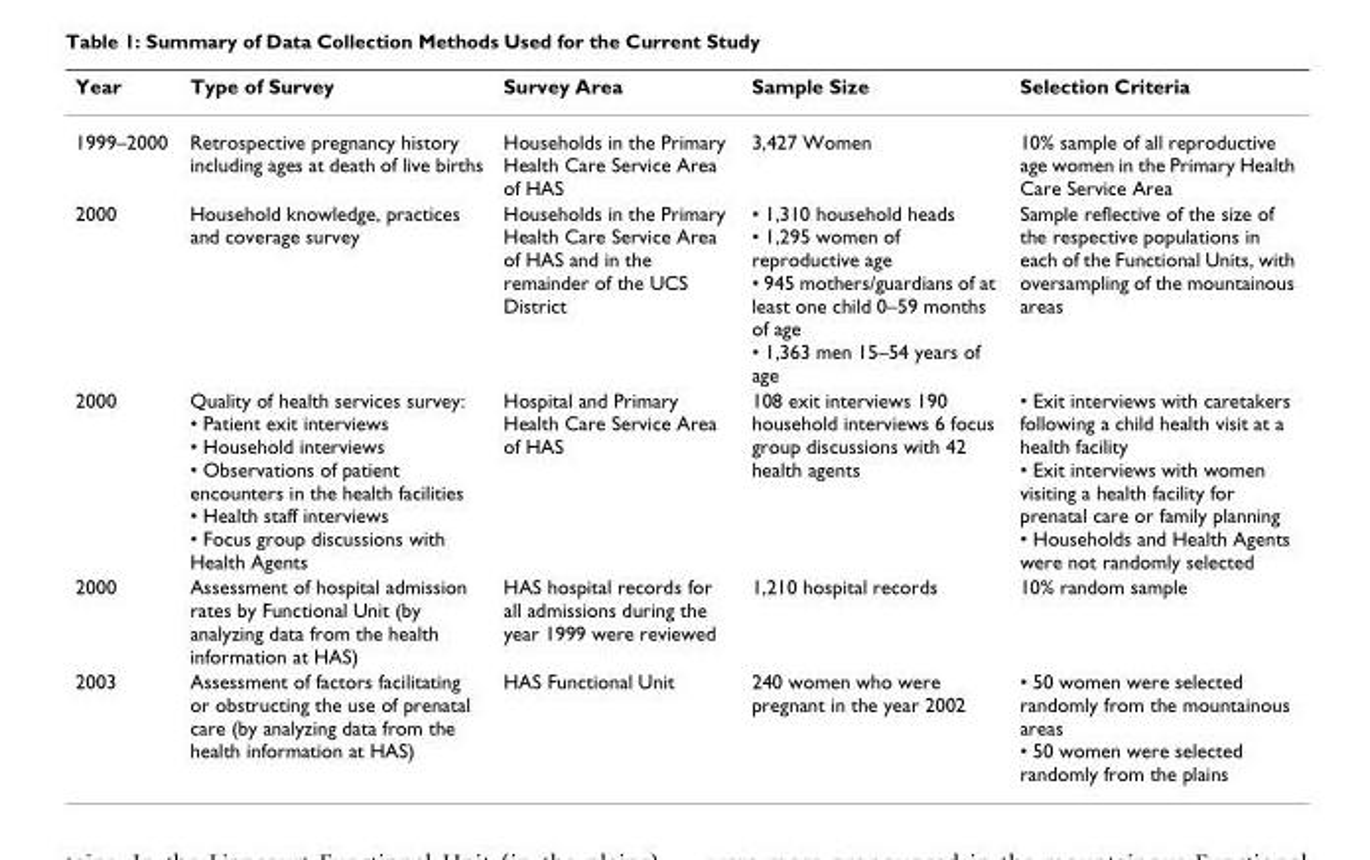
<table><thead><tr><td>Year</td><td>Type of Survey</td><td>Survey Area</td><td>Sample Size</td><td>Selection Criteria</td></tr></thead><tbody><tr><td>1999–2000</td><td>Retrospective pregnancy history including ages at death of live births</td><td>Households in the Primary Health Care Service Area of HAS</td><td>3,427 Women</td><td>10% sample of all reproductive age women in the Primary Health Care Service Area</td></tr><tr><td>2000</td><td>Household knowledge, practices and coverage survey</td><td>Households in the Primary Health Care Service Area of HAS and in the remainder of the UCS District</td><td>• 1,310 household heads • 1,295 women of reproductive age • 945 mothers/guardians of at least one child 0–59 months of age • 1,363 men 15–54 years of age</td><td>Sample reflective of the size of the respective populations in each of the Functional Units, with oversampling of the mountainous areas</td></tr><tr><td>2000</td><td>Quality of health services survey: • Patient exit interviews • Household interviews • Observations of patient encounters in the health facilities • Health staff interviews • Focus group discussions with Health Agents</td><td>Hospital and Primary Health Care Service Area of HAS</td><td>108 exit interviews 190 household interviews 6 focus group discussions with 42 health agents</td><td>• Exit interviews with caretakers following a child health visit at a health facility • Exit interviews with women visiting a health facility for prenatal care or family planning • Households and Health Agents were not randomly selected</td></tr><tr><td>2000</td><td>Assessment of hospital admission rates by Functional Unit (by analyzing data from the health information at HAS)</td><td>HAS hospital records for all admissions during the year 1999 were reviewed</td><td>1,210 hospital records</td><td>10% random sample</td></tr><tr><td>2003</td><td>Assessment of factors facilitating or obstructing the use of prenatal care (by analyzing data from the health information at HAS)</td><td>HAS Functional Unit</td><td>240 women who were pregnant in the year 2002</td><td>• 50 women were selected randomly from the mountainous areas • 50 women were selected randomly from the plains</td></tr></tbody></table>